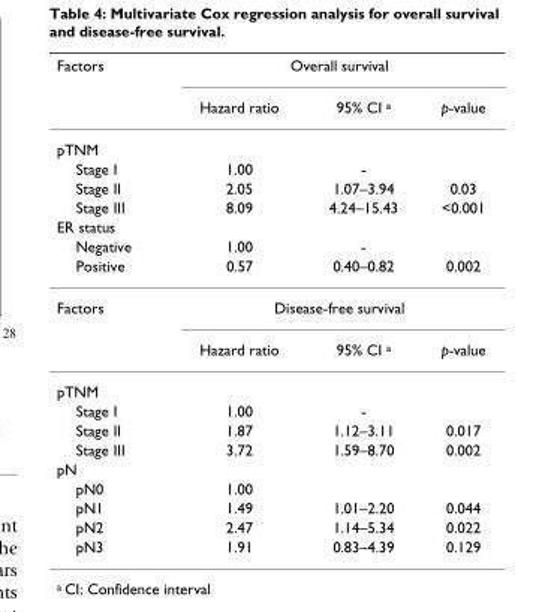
<table><thead><tr><td rowspan="2">Factors</td><td colspan="3">Overall survival</td></tr><tr><td>Hazard ratio</td><td>95% CI a</td><td>p-value</td></tr></thead><tbody><tr><td colspan="4">pTNM</td></tr><tr><td>Stage I</td><td>1.00</td><td>-</td><td></td></tr><tr><td>Stage II</td><td>2.05</td><td>1.07–3.94</td><td>0.03</td></tr><tr><td>Stage III</td><td>8.09</td><td>4.24–15.43</td><td>&lt;0.001</td></tr><tr><td colspan="4">ER status</td></tr><tr><td>Negative</td><td>1.00</td><td>-</td><td></td></tr><tr><td>Positive</td><td>0.57</td><td>0.40–0.82</td><td>0.002</td></tr><tr><td rowspan="2">Factors</td><td colspan="3">Disease-free survival</td></tr><tr><td>Hazard ratio</td><td>95% CI a</td><td>p-value</td></tr><tr><td colspan="4">pTNM</td></tr><tr><td>Stage I</td><td>1.00</td><td>-</td><td></td></tr><tr><td>Stage II</td><td>1.87</td><td>1.12–3.11</td><td>0.017</td></tr><tr><td>Stage III</td><td>3.72</td><td>1.59–8.70</td><td>0.002</td></tr><tr><td colspan="4">pN</td></tr><tr><td>pN0</td><td>1.00</td><td></td><td></td></tr><tr><td>pN1</td><td>1.49</td><td>1.01–2.20</td><td>0.044</td></tr><tr><td>pN2</td><td>2.47</td><td>1.14–5.34</td><td>0.022</td></tr><tr><td>pN3</td><td>1.91</td><td>0.83–4.39</td><td>0.129</td></tr></tbody></table>